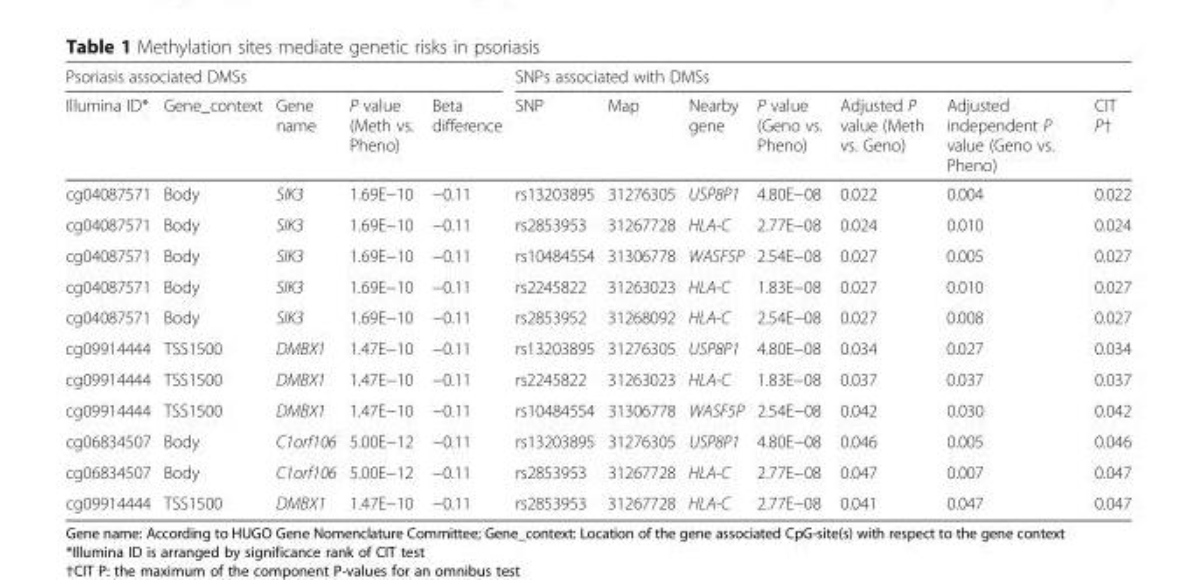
<table><thead><tr><td colspan="5">Psoriasis associated DMSs</td><td colspan="7">SNPs associated with DMSs</td></tr><tr><td>Illumina ID*</td><td>Gene_context</td><td>Gene name</td><td>P value (Meth vs. Pheno)</td><td>Beta difference</td><td>SNP</td><td>Map</td><td>Nearby gene</td><td>P value (Geno vs. Pheno)</td><td>Adjusted P value (Meth vs. Geno)</td><td>Adjusted independent P value (Geno vs. Pheno)</td><td>CIT P†</td></tr></thead><tbody><tr><td>cg04087571</td><td>Body</td><td>SIK3</td><td>1.69E−10</td><td>−0.11</td><td>rs13203895</td><td>31276305</td><td>USP8P1</td><td>4.80E−08</td><td>0.022</td><td>0.004</td><td>0.022</td></tr><tr><td>cg04087571</td><td>Body</td><td>SIK3</td><td>1.69E−10</td><td>−0.11</td><td>rs2853953</td><td>31267728</td><td>HLA-C</td><td>2.77E−08</td><td>0.024</td><td>0.010</td><td>0.024</td></tr><tr><td>cg04087571</td><td>Body</td><td>SIK3</td><td>1.69E−10</td><td>−0.11</td><td>rs10484554</td><td>31306778</td><td>WASF5P</td><td>2.54E−08</td><td>0.027</td><td>0.005</td><td>0.027</td></tr><tr><td>cg04087571</td><td>Body</td><td>SIK3</td><td>1.69E−10</td><td>−0.11</td><td>rs2245822</td><td>31263023</td><td>HLA-C</td><td>1.83E−08</td><td>0.027</td><td>0.010</td><td>0.027</td></tr><tr><td>cg04087571</td><td>Body</td><td>SIK3</td><td>1.69E−10</td><td>−0.11</td><td>rs2853952</td><td>31268092</td><td>HLA-C</td><td>2.54E−08</td><td>0.027</td><td>0.008</td><td>0.027</td></tr><tr><td>cg09914444</td><td>TSS1500</td><td>DMBX1</td><td>1.47E−10</td><td>−0.11</td><td>rs13203895</td><td>31276305</td><td>USP8P1</td><td>4.80E−08</td><td>0.034</td><td>0.027</td><td>0.034</td></tr><tr><td>cg09914444</td><td>TSS1500</td><td>DMBX1</td><td>1.47E−10</td><td>−0.11</td><td>rs2245822</td><td>31263023</td><td>HLA-C</td><td>1.83E−08</td><td>0.037</td><td>0.037</td><td>0.037</td></tr><tr><td>cg09914444</td><td>TSS1500</td><td>DMBX1</td><td>1.47E−10</td><td>−0.11</td><td>rs10484554</td><td>31306778</td><td>WASF5P</td><td>2.54E−08</td><td>0.042</td><td>0.030</td><td>0.042</td></tr><tr><td>cg06834507</td><td>Body</td><td>C1orf106</td><td>5.00E−12</td><td>−0.11</td><td>rs13203895</td><td>31276305</td><td>USP8P1</td><td>4.80E−08</td><td>0.046</td><td>0.005</td><td>0.046</td></tr><tr><td>cg06834507</td><td>Body</td><td>C1orf106</td><td>5.00E−12</td><td>−0.11</td><td>rs2853953</td><td>31267728</td><td>HLA-C</td><td>2.77E−08</td><td>0.047</td><td>0.007</td><td>0.047</td></tr><tr><td>cg09914444</td><td>TSS1500</td><td>DMBX1</td><td>1.47E−10</td><td>−0.11</td><td>rs2853953</td><td>31267728</td><td>HLA-C</td><td>2.77E−08</td><td>0.041</td><td>0.047</td><td>0.047</td></tr></tbody></table>